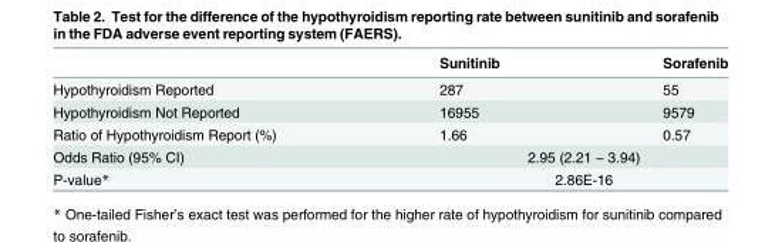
<table><thead><tr><td></td><td>Sunitinib</td><td>Sorafenib</td></tr></thead><tbody><tr><td>Hypothyroidism Reported</td><td>287</td><td>55</td></tr><tr><td>Hypothyroidism Not Reported</td><td>16955</td><td>9579</td></tr><tr><td>Ratio of Hypothyroidism Report (%)</td><td>1.66</td><td>0.57</td></tr><tr><td>Odds Ratio (95% CI)</td><td colspan="2">2.95 (2.21 − 3.94)</td></tr><tr><td>P-value*</td><td colspan="2">2.86E-16</td></tr></tbody></table>